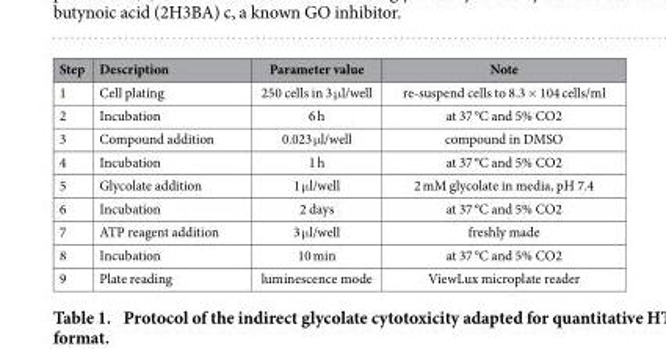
<table><thead><tr><td>Step</td><td>Description</td><td>Parameter value</td><td>Note</td></tr></thead><tbody><tr><td>1</td><td>Cell plating</td><td>250 cells in 3 μ l/well</td><td>re-suspend cells to 8.3 × 104 cells/ml</td></tr><tr><td>2</td><td>Incubation</td><td>6 h</td><td>at 37 °C and 5% CO2</td></tr><tr><td>3</td><td>Compound addition</td><td>0.023 μ l/well</td><td>compound in DMSO</td></tr><tr><td>4</td><td>Incubation</td><td>1 h</td><td>at 37 °C and 5% CO2</td></tr><tr><td>5</td><td>Glycolate addition</td><td>1 μ l/well</td><td>2 mM glycolate in media, pH 7.4</td></tr><tr><td>6</td><td>Incubation</td><td>2 days</td><td>at 37 °C and 5% CO2</td></tr><tr><td>7</td><td>ATP reagent addition</td><td>3 μ l/well</td><td>freshly made</td></tr><tr><td>8</td><td>Incubation</td><td>10 min</td><td>at 37 °C and 5% CO2</td></tr><tr><td>9</td><td>Plate reading</td><td>luminescence mode</td><td>ViewLux microplate reader</td></tr></tbody></table>